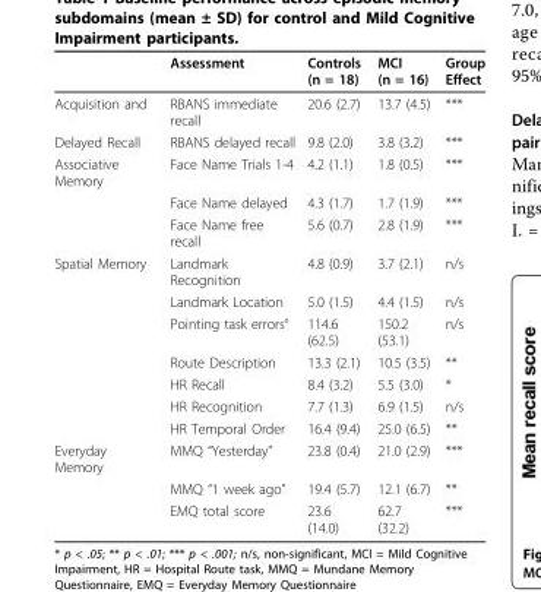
<table><thead><tr><td></td><td>Assessment</td><td>Controls (n = 18)</td><td>MCI (n = 16)</td><td>Group Effect</td></tr></thead><tbody><tr><td>Acquisition and</td><td>RBANS immediate recall</td><td>20.6 (2.7)</td><td>13.7 (4.5)</td><td>***</td></tr><tr><td>Delayed Recall</td><td>RBANS delayed recall</td><td>9.8 (2.0)</td><td>3.8 (3.2)</td><td>***</td></tr><tr><td rowspan="3">Associative Memory</td><td>Face Name Trials 1-4</td><td>4.2 (1.1)</td><td>1.8 (0.5)</td><td>***</td></tr><tr><td>Face Name delayed</td><td>4.3 (1.7)</td><td>1.7 (1.9)</td><td>***</td></tr><tr><td>Face Name free recall</td><td>5.6 (0.7)</td><td>2.8 (1.9)</td><td>***</td></tr><tr><td rowspan="7">Spatial Memory</td><td>Landmark Recognition</td><td>4.8 (0.9)</td><td>3.7 (2.1)</td><td>n/s</td></tr><tr><td>Landmark Location</td><td>5.0 (1.5)</td><td>4.4 (1.5)</td><td>n/s</td></tr><tr><td>Pointing task errors°</td><td>114.6 (62.5)</td><td>150.2 (53.1)</td><td>n/s</td></tr><tr><td>Route Description</td><td>13.3 (2.1)</td><td>10.5 (3.5)</td><td>**</td></tr><tr><td>HR Recall</td><td>8.4 (3.2)</td><td>5.5 (3.0)</td><td>*</td></tr><tr><td>HR Recognition</td><td>7.7 (1.3)</td><td>6.9 (1.5)</td><td>n/s</td></tr><tr><td>HR Temporal Order</td><td>16.4 (9.4)</td><td>25.0 (6.5)</td><td>**</td></tr><tr><td rowspan="3">Everyday Memory</td><td>MMQ “Yesterday”</td><td>23.8 (0.4)</td><td>21.0 (2.9)</td><td>***</td></tr><tr><td>MMQ “1 week ago”</td><td>19.4 (5.7)</td><td>12.1 (6.7)</td><td>**</td></tr><tr><td>EMQ total score</td><td>23.6 (14.0)</td><td>62.7 (32.2)</td><td>***</td></tr></tbody></table>